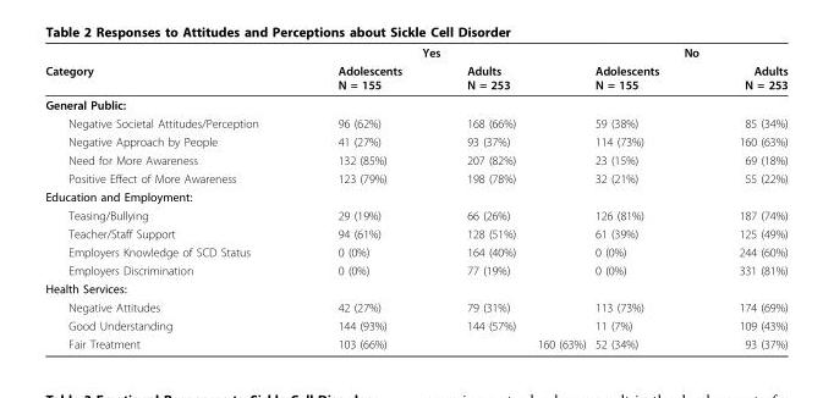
<table><thead><tr><td rowspan="2">Category</td><td colspan="2">Yes</td><td colspan="2">No</td></tr><tr><td>Adolescents N = 155</td><td>Adults N = 253</td><td>Adolescents N = 155</td><td>Adults N = 253</td></tr></thead><tbody><tr><td colspan="5">General Public:</td></tr><tr><td>Negative Societal Attitudes/Perception</td><td>96 (62%)</td><td>168 (66%)</td><td>59 (38%)</td><td>85 (34%)</td></tr><tr><td>Negative Approach by People</td><td>41 (27%)</td><td>93 (37%)</td><td>114 (73%)</td><td>160 (63%)</td></tr><tr><td>Need for More Awareness</td><td>132 (85%)</td><td>207 (82%)</td><td>23 (15%)</td><td>69 (18%)</td></tr><tr><td>Positive Effect of More Awareness</td><td>123 (79%)</td><td>198 (78%)</td><td>32 (21%)</td><td>55 (22%)</td></tr><tr><td colspan="5">Education and Employment:</td></tr><tr><td>Teasing/Bullying</td><td>29 (19%)</td><td>66 (26%)</td><td>126 (81%)</td><td>187 (74%)</td></tr><tr><td>Teacher/Staff Support</td><td>94 (61%)</td><td>128 (51%)</td><td>61 (39%)</td><td>125 (49%)</td></tr><tr><td>Employers Knowledge of SCD Status</td><td>0 (0%)</td><td>164 (40%)</td><td>0 (0%)</td><td>244 (60%)</td></tr><tr><td>Employers Discrimination</td><td>0 (0%)</td><td>77 (19%)</td><td>0 (0%)</td><td>331 (81%)</td></tr><tr><td colspan="5">Health Services:</td></tr><tr><td>Negative Attitudes</td><td>42 (27%)</td><td>79 (31%)</td><td>113 (73%)</td><td>174 (69%)</td></tr><tr><td>Good Understanding</td><td>144 (93%)</td><td>144 (57%)</td><td>11 (7%)</td><td>109 (43%)</td></tr><tr><td>Fair Treatment</td><td>103 (66%)</td><td>160 (63%)</td><td>52 (34%)</td><td>93 (37%)</td></tr></tbody></table>